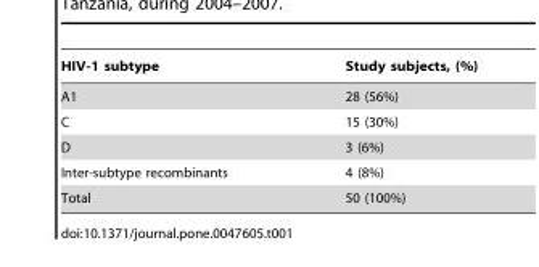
<table><thead><tr><td>HIV-1 subtype</td><td>Study subjects, (%)</td></tr></thead><tbody><tr><td>A1</td><td>28 (56%)</td></tr><tr><td>C</td><td>15 (30%)</td></tr><tr><td>D</td><td>3 (6%)</td></tr><tr><td>Inter-subtype recombinants</td><td>4 (8%)</td></tr><tr><td>Total</td><td>50 (100%)</td></tr></tbody></table>